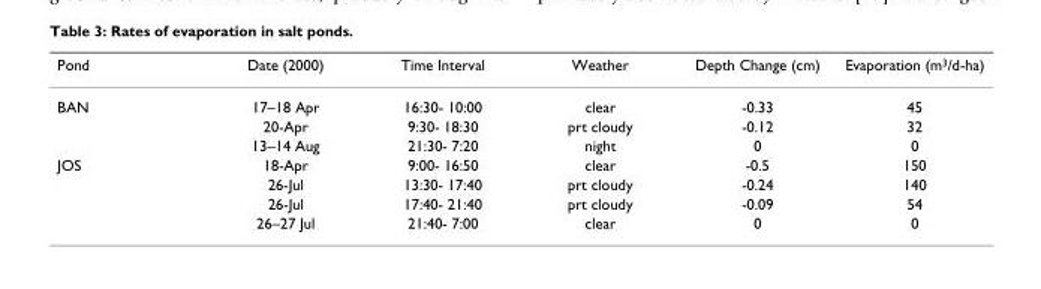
<table><thead><tr><td>Pond</td><td>Date (2000)</td><td>Time Interval</td><td>Weather</td><td>Depth Change (cm)</td><td>Evaporation (m<sup>3</sup>/d-ha)</td></tr></thead><tbody><tr><td rowspan="3">BAN</td><td>17–18 Apr</td><td>16:30- 10:00</td><td>clear</td><td>-0.33</td><td>45</td></tr><tr><td>20-Apr</td><td>9:30- 18:30</td><td>prt cloudy</td><td>-0.12</td><td>32</td></tr><tr><td>13–14 Aug</td><td>21:30- 7:20</td><td>night</td><td>0</td><td>0</td></tr><tr><td rowspan="4">JOS</td><td>18-Apr</td><td>9:00- 16:50</td><td>clear</td><td>-0.5</td><td>150</td></tr><tr><td>26-Jul</td><td>13:30- 17:40</td><td>prt cloudy</td><td>-0.24</td><td>140</td></tr><tr><td>26-Jul</td><td>17:40- 21:40</td><td>prt cloudy</td><td>-0.09</td><td>54</td></tr><tr><td>26–27 Jul</td><td>21:40- 7:00</td><td>clear</td><td>0</td><td>0</td></tr></tbody></table>